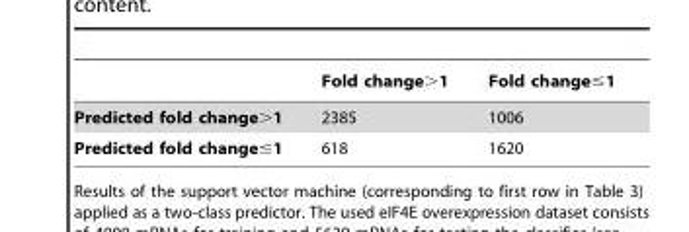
<table><thead><tr><td></td><td>Fold change&gt;1</td><td>Fold change≤1</td></tr></thead><tbody><tr><td>Predicted fold change&gt;1</td><td>2385</td><td>1006</td></tr><tr><td>Predicted fold change≤1</td><td>618</td><td>1620</td></tr></tbody></table>